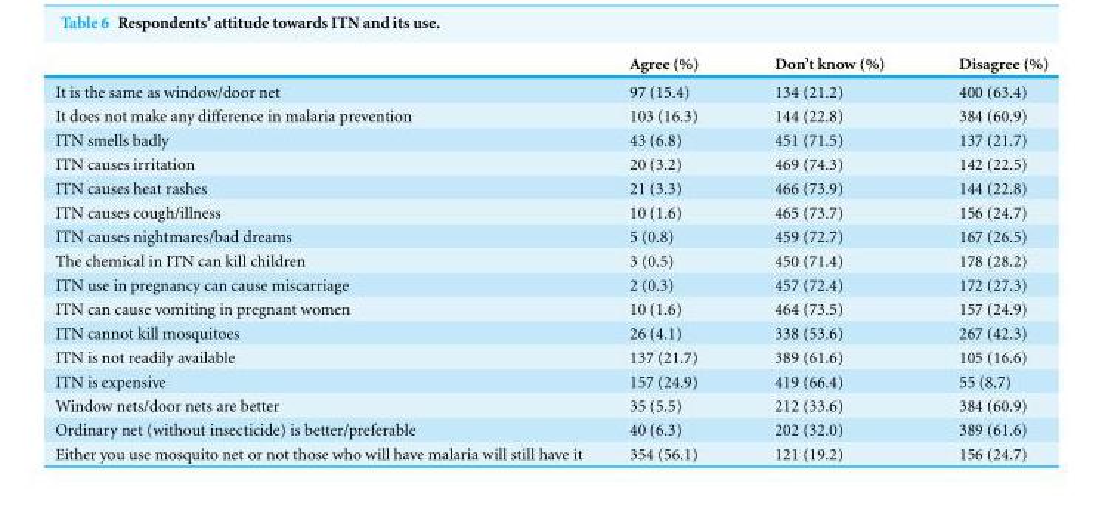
<table><thead><tr><td></td><td>Agree (%)</td><td>Don’t know (%)</td><td>Disagree (%)</td></tr></thead><tbody><tr><td>It is the same as window/door net</td><td>97 (15.4)</td><td>134 (21.2)</td><td>400 (63.4)</td></tr><tr><td>It does not make any difference in malaria prevention</td><td>103 (16.3)</td><td>144 (22.8)</td><td>384 (60.9)</td></tr><tr><td>ITN smells badly</td><td>43 (6.8)</td><td>451 (71.5)</td><td>137 (21.7)</td></tr><tr><td>ITN causes irritation</td><td>20 (3.2)</td><td>469 (74.3)</td><td>142 (22.5)</td></tr><tr><td>ITN causes heat rashes</td><td>21 (3.3)</td><td>466 (73.9)</td><td>144 (22.8)</td></tr><tr><td>ITN causes cough/illness</td><td>10 (1.6)</td><td>465 (73.7)</td><td>156 (24.7)</td></tr><tr><td>ITN causes nightmares/bad dreams</td><td>5 (0.8)</td><td>459 (72.7)</td><td>167 (26.5)</td></tr><tr><td>The chemical in ITN can kill children</td><td>3 (0.5)</td><td>450 (71.4)</td><td>178 (28.2)</td></tr><tr><td>ITN use in pregnancy can cause miscarriage</td><td>2 (0.3)</td><td>457 (72.4)</td><td>172 (27.3)</td></tr><tr><td>ITN can cause vomiting in pregnant women</td><td>10 (1.6)</td><td>464 (73.5)</td><td>157 (24.9)</td></tr><tr><td>ITN cannot kill mosquitoes</td><td>26 (4.1)</td><td>338 (53.6)</td><td>267 (42.3)</td></tr><tr><td>ITN is not readily available</td><td>137 (21.7)</td><td>389 (61.6)</td><td>105 (16.6)</td></tr><tr><td>ITN is expensive</td><td>157 (24.9)</td><td>419 (66.4)</td><td>55 (8.7)</td></tr><tr><td>Window nets/door nets are better</td><td>35 (5.5)</td><td>212 (33.6)</td><td>384 (60.9)</td></tr><tr><td>Ordinary net (without insecticide) is better/preferable</td><td>40 (6.3)</td><td>202 (32.0)</td><td>389 (61.6)</td></tr><tr><td>Either you use mosquito net or not those who will have malaria will still have it</td><td>354 (56.1)</td><td>121 (19.2)</td><td>156 (24.7)</td></tr></tbody></table>